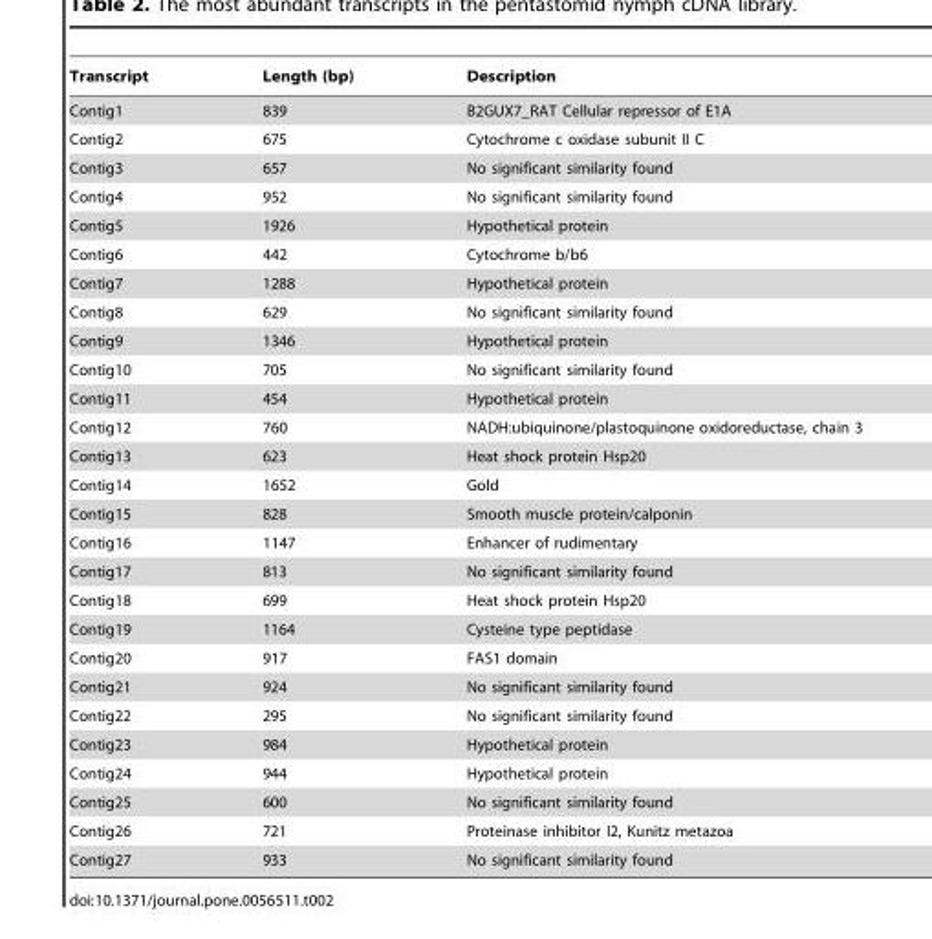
<table><thead><tr><td>Transcript</td><td>Length (bp)</td><td>Description</td></tr></thead><tbody><tr><td>Contig1</td><td>839</td><td>B2GUX7_RAT Cellular repressor of E1A</td></tr><tr><td>Contig2</td><td>675</td><td>Cytochrome c oxidase subunit II C</td></tr><tr><td>Contig3</td><td>657</td><td>No significant similarity found</td></tr><tr><td>Contig4</td><td>952</td><td>No significant similarity found</td></tr><tr><td>Contig5</td><td>1926</td><td>Hypothetical protein</td></tr><tr><td>Contig6</td><td>442</td><td>Cytochrome b/b6</td></tr><tr><td>Contig7</td><td>1288</td><td>Hypothetical protein</td></tr><tr><td>Contig8</td><td>629</td><td>No significant similarity found</td></tr><tr><td>Contig9</td><td>1346</td><td>Hypothetical protein</td></tr><tr><td>Contig10</td><td>705</td><td>No significant similarity found</td></tr><tr><td>Contig11</td><td>454</td><td>Hypothetical protein</td></tr><tr><td>Contig12</td><td>760</td><td>NADH:ubiquinone/plastoquinone oxidoreductase, chain 3</td></tr><tr><td>Contig13</td><td>623</td><td>Heat shock protein Hsp20</td></tr><tr><td>Contig14</td><td>1652</td><td>Gold</td></tr><tr><td>Contig15</td><td>828</td><td>Smooth muscle protein/calponin</td></tr><tr><td>Contig16</td><td>1147</td><td>Enhancer of rudimentary</td></tr><tr><td>Contig17</td><td>813</td><td>No significant similarity found</td></tr><tr><td>Contig18</td><td>699</td><td>Heat shock protein Hsp20</td></tr><tr><td>Contig19</td><td>1164</td><td>Cysteine type peptidase</td></tr><tr><td>Contig20</td><td>917</td><td>FAS1 domain</td></tr><tr><td>Contig21</td><td>924</td><td>No significant similarity found</td></tr><tr><td>Contig22</td><td>295</td><td>No significant similarity found</td></tr><tr><td>Contig23</td><td>984</td><td>Hypothetical protein</td></tr><tr><td>Contig24</td><td>944</td><td>Hypothetical protein</td></tr><tr><td>Contig25</td><td>600</td><td>No significant similarity found</td></tr><tr><td>Contig26</td><td>721</td><td>Proteinase inhibitor I2, Kunitz metazoa</td></tr><tr><td>Contig27</td><td>933</td><td>No significant similarity found</td></tr></tbody></table>